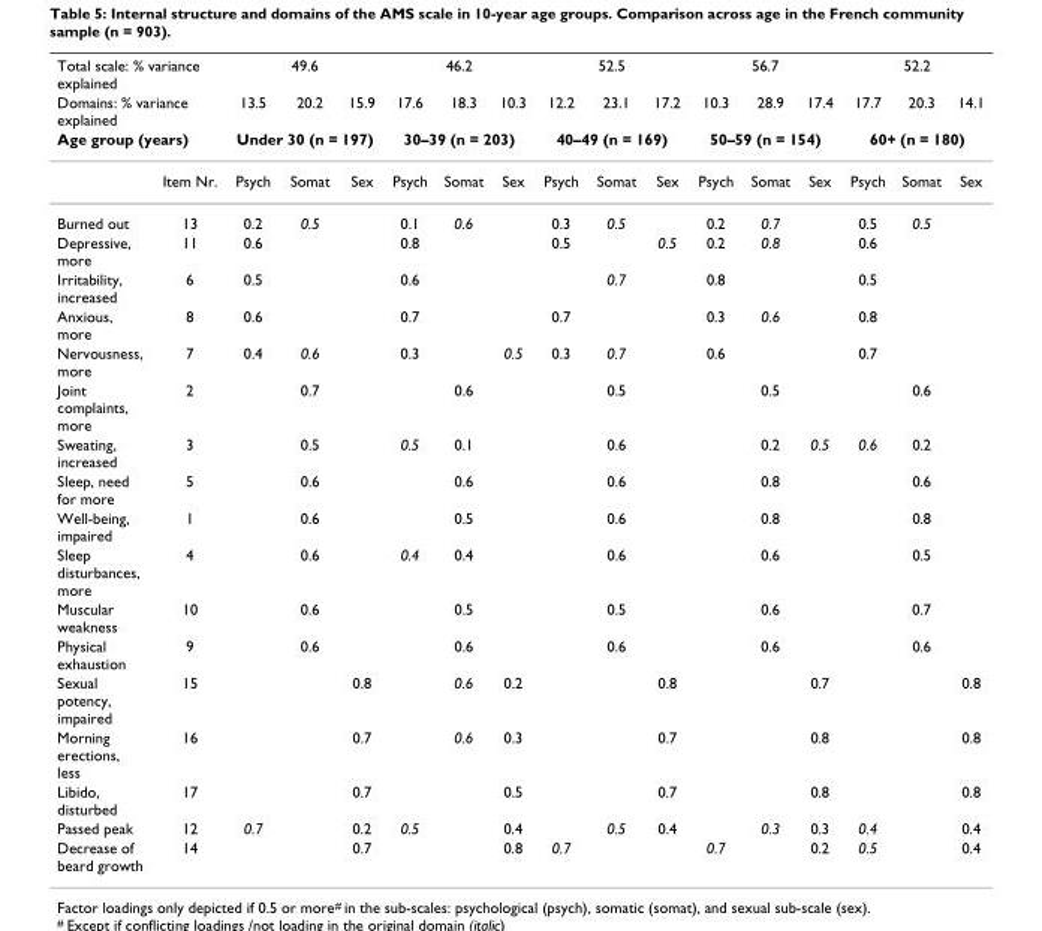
<table><thead><tr><td rowspan="3" colspan="2">Total scale: % variance explained Domains: % variance explained Age group (years)</td><td colspan="3">49.6</td><td colspan="3">46.2</td><td colspan="3">52.5</td><td colspan="3">56.7</td><td colspan="3">52.2</td></tr><tr><td>13.5</td><td>20.2</td><td>15.9</td><td>17.6</td><td>18.3</td><td>10.3</td><td>12.2</td><td>23.1</td><td>17.2</td><td>10.3</td><td>28.9</td><td>17.4</td><td>17.7</td><td>20.3</td><td>14.1</td></tr><tr><td colspan="3">Under 30 (n = 197)</td><td colspan="3">30–39 (n = 203)</td><td colspan="3">40–49 (n = 169)</td><td colspan="3">50–59 (n = 154)</td><td colspan="3">60+ (n = 180)</td></tr><tr><td></td><td>Item Nr.</td><td>Psych</td><td>Somat</td><td>Sex</td><td>Psych</td><td>Somat</td><td>Sex</td><td>Psych</td><td>Somat</td><td>Sex</td><td>Psych</td><td>Somat</td><td>Sex</td><td>Psych</td><td>Somat</td><td>Sex</td></tr></thead><tbody><tr><td>Burned out</td><td>13</td><td>0.2</td><td>0.5</td><td></td><td>0.1</td><td>0.6</td><td></td><td>0.3</td><td>0.5</td><td></td><td>0.2</td><td>0.7</td><td></td><td>0.5</td><td>0.5</td><td></td></tr><tr><td>Depressive, more</td><td>11</td><td>0.6</td><td></td><td></td><td>0.8</td><td></td><td></td><td>0.5</td><td></td><td>0.5</td><td>0.2</td><td>0.8</td><td></td><td>0.6</td><td></td><td></td></tr><tr><td>Irritability, increased</td><td>6</td><td>0.5</td><td></td><td></td><td>0.6</td><td></td><td></td><td></td><td>0.7</td><td></td><td>0.8</td><td></td><td></td><td>0.5</td><td></td><td></td></tr><tr><td>Anxious, more</td><td>8</td><td>0.6</td><td></td><td></td><td>0.7</td><td></td><td></td><td>0.7</td><td></td><td></td><td>0.3</td><td>0.6</td><td></td><td>0.8</td><td></td><td></td></tr><tr><td>Nervousness, more</td><td>7</td><td>0.4</td><td>0.6</td><td></td><td>0.3</td><td></td><td>0.5</td><td>0.3</td><td>0.7</td><td></td><td>0.6</td><td></td><td></td><td>0.7</td><td></td><td></td></tr><tr><td>Joint complaints, more</td><td>2</td><td></td><td>0.7</td><td></td><td></td><td>0.6</td><td></td><td></td><td>0.5</td><td></td><td></td><td>0.5</td><td></td><td></td><td>0.6</td><td></td></tr><tr><td>Sweating, increased</td><td>3</td><td></td><td>0.5</td><td></td><td>0.5</td><td>0.1</td><td></td><td></td><td>0.6</td><td></td><td></td><td>0.2</td><td>0.5</td><td>0.6</td><td>0.2</td><td></td></tr><tr><td>Sleep, need for more</td><td>5</td><td></td><td>0.6</td><td></td><td></td><td>0.6</td><td></td><td></td><td>0.6</td><td></td><td></td><td>0.8</td><td></td><td></td><td>0.6</td><td></td></tr><tr><td>Well-being, impaired</td><td>1</td><td></td><td>0.6</td><td></td><td></td><td>0.5</td><td></td><td></td><td>0.6</td><td></td><td></td><td>0.8</td><td></td><td></td><td>0.8</td><td></td></tr><tr><td>Sleep disturbances, more</td><td>4</td><td></td><td>0.6</td><td></td><td>0.4</td><td>0.4</td><td></td><td></td><td>0.6</td><td></td><td></td><td>0.6</td><td></td><td></td><td>0.5</td><td></td></tr><tr><td>Muscular weakness</td><td>10</td><td></td><td>0.6</td><td></td><td></td><td>0.5</td><td></td><td></td><td>0.5</td><td></td><td></td><td>0.6</td><td></td><td></td><td>0.7</td><td></td></tr><tr><td>Physical exhaustion</td><td>9</td><td></td><td>0.6</td><td></td><td></td><td>0.6</td><td></td><td></td><td>0.6</td><td></td><td></td><td>0.6</td><td></td><td></td><td>0.6</td><td></td></tr><tr><td>Sexual potency, impaired</td><td>15</td><td></td><td></td><td>0.8</td><td></td><td>0.6</td><td>0.2</td><td></td><td></td><td>0.8</td><td></td><td></td><td>0.7</td><td></td><td></td><td>0.8</td></tr><tr><td>Morning erections, less</td><td>16</td><td></td><td></td><td>0.7</td><td></td><td>0.6</td><td>0.3</td><td></td><td></td><td>0.7</td><td></td><td></td><td>0.8</td><td></td><td></td><td>0.8</td></tr><tr><td>Libido, disturbed</td><td>17</td><td></td><td></td><td>0.7</td><td></td><td></td><td>0.5</td><td></td><td></td><td>0.7</td><td></td><td></td><td>0.8</td><td></td><td></td><td>0.8</td></tr><tr><td>Passed peak</td><td>12</td><td>0.7</td><td></td><td>0.2</td><td>0.5</td><td></td><td>0.4</td><td></td><td>0.5</td><td>0.4</td><td></td><td>0.3</td><td>0.3</td><td>0.4</td><td></td><td>0.4</td></tr><tr><td>Decrease of beard growth</td><td>14</td><td></td><td></td><td>0.7</td><td></td><td></td><td>0.8</td><td>0.7</td><td></td><td></td><td>0.7</td><td></td><td>0.2</td><td>0.5</td><td></td><td>0.4</td></tr></tbody></table>